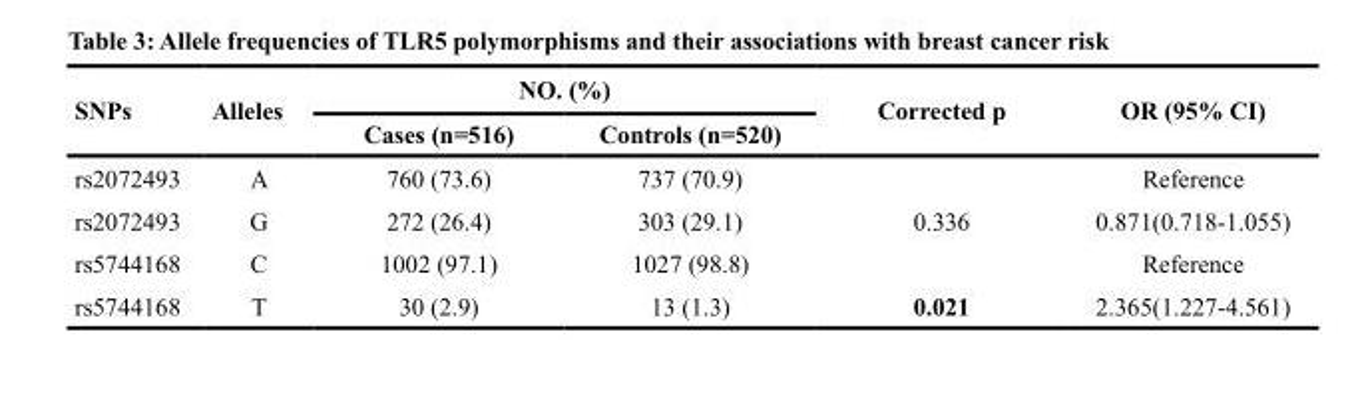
<table><thead><tr><td rowspan="2">SNPs</td><td rowspan="2">Alleles</td><td colspan="2">NO. (%)</td><td rowspan="2">Corrected p</td><td rowspan="2">OR (95% CI)</td></tr><tr><td>Cases (n=516)</td><td>Controls (n=520)</td></tr></thead><tbody><tr><td>rs2072493</td><td>A</td><td>760 (73.6)</td><td>737 (70.9)</td><td></td><td>Reference</td></tr><tr><td>rs2072493</td><td>G</td><td>272 (26.4)</td><td>303 (29.1)</td><td>0.336</td><td>0.871(0.718-1.055)</td></tr><tr><td>rs5744168</td><td>C</td><td>1002 (97.1)</td><td>1027 (98.8)</td><td></td><td>Reference</td></tr><tr><td>rs5744168</td><td>T</td><td>30 (2.9)</td><td>13 (1.3)</td><td>0.021</td><td>2.365(1.227-4.561)</td></tr></tbody></table>